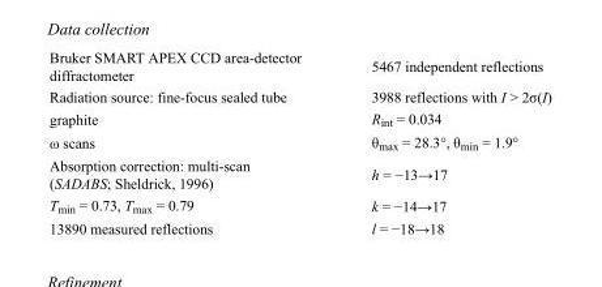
<table><tbody><tr><td>Bruker SMART APEX CCD area-detector diffractometer</td><td>5467 independent reflections</td></tr><tr><td>Radiation source: fine-focus sealed tube</td><td>3988 reflections with I &gt; 2σ(I)</td></tr><tr><td>graphite</td><td>R<sub>int</sub> = 0.034</td></tr><tr><td>ω scans</td><td>θ<sub>max</sub> = 28.3°, θ<sub>min</sub> = 1.9°</td></tr><tr><td>Absorption correction: multi-scan (SADABS; Sheldrick, 1996)</td><td>h = −13→17</td></tr><tr><td>T<sub>min</sub> = 0.73, T<sub>max</sub> = 0.79</td><td>k = −14→17</td></tr><tr><td>13890 measured reflections</td><td>l = −18→18</td></tr></tbody></table>